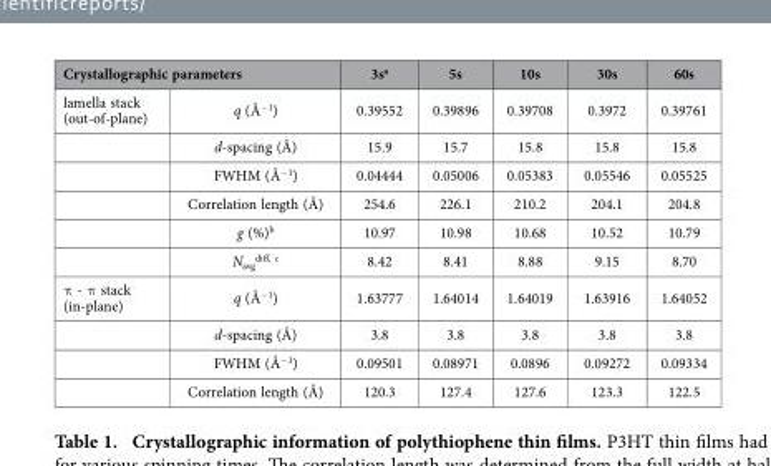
<table><thead><tr><td colspan="2">Crystallographic parameters</td><td rowspan="2">3s<sup>a</sup> 0.39552</td><td rowspan="2">5s 0.39896</td><td rowspan="2">10s 0.39708</td><td rowspan="2">30s 0.3972</td><td rowspan="2">60s 0.39761</td></tr><tr><td>lamella stack (out-of-plane)</td><td>q (Å<sup>−1</sup>)</td></tr></thead><tbody><tr><td></td><td>d-spacing (Å)</td><td>15.9</td><td>15.7</td><td>15.8</td><td>15.8</td><td>15.8</td></tr><tr><td></td><td>FWHM (Å<sup>−1</sup>)</td><td>0.04444</td><td>0.05006</td><td>0.05383</td><td>0.05546</td><td>0.05525</td></tr><tr><td></td><td>Correlation length (Å)</td><td>254.6</td><td>226.1</td><td>210.2</td><td>204.1</td><td>204.8</td></tr><tr><td></td><td>g (%)<sup>b</sup></td><td>10.97</td><td>10.98</td><td>10.68</td><td>10.52</td><td>10.79</td></tr><tr><td></td><td>N<sub>avg</sub> <sup>diff,</sup> c</td><td>8.42</td><td>8.41</td><td>8.88</td><td>9.15</td><td>8.70</td></tr><tr><td rowspan="4">π - π stack (in-plane)</td><td>q (Å<sup>−1</sup>)</td><td>1.63777</td><td>1.64014</td><td>1.64019</td><td>1.63916</td><td>1.64052</td></tr><tr><td>d-spacing (Å)</td><td>3.8</td><td>3.8</td><td>3.8</td><td>3.8</td><td>3.8</td></tr><tr><td>FWHM (Å<sup>−1</sup>)</td><td>0.09501</td><td>0.08971</td><td>0.0896</td><td>0.09272</td><td>0.09334</td></tr><tr><td>Correlation length (Å)</td><td>120.3</td><td>127.4</td><td>127.6</td><td>123.3</td><td>122.5</td></tr></tbody></table>